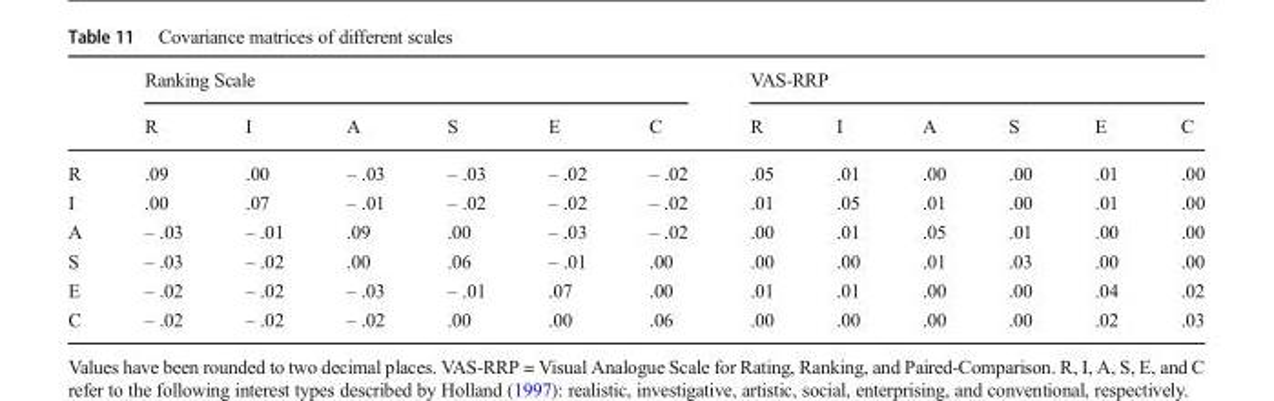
<table><thead><tr><td rowspan="2"></td><td colspan="6">Ranking Scale</td><td colspan="6">VAS-RRP</td></tr><tr><td>R</td><td>I</td><td>A</td><td>S</td><td>E</td><td>C</td><td>R</td><td>I</td><td>A</td><td>S</td><td>E</td><td>C</td></tr></thead><tbody><tr><td>R</td><td>.09</td><td>.00</td><td>– .03</td><td>– .03</td><td>– .02</td><td>– .02</td><td>.05</td><td>.01</td><td>.00</td><td>.00</td><td>.01</td><td>.00</td></tr><tr><td>I</td><td>.00</td><td>.07</td><td>– .01</td><td>– .02</td><td>– .02</td><td>– .02</td><td>.01</td><td>.05</td><td>.01</td><td>.00</td><td>.01</td><td>.00</td></tr><tr><td>A</td><td>– .03</td><td>– .01</td><td>.09</td><td>.00</td><td>– .03</td><td>– .02</td><td>.00</td><td>.01</td><td>.05</td><td>.01</td><td>.00</td><td>.00</td></tr><tr><td>S</td><td>– .03</td><td>– .02</td><td>.00</td><td>.06</td><td>– .01</td><td>.00</td><td>.00</td><td>.00</td><td>.01</td><td>.03</td><td>.00</td><td>.00</td></tr><tr><td>E</td><td>– .02</td><td>– .02</td><td>– .03</td><td>– .01</td><td>.07</td><td>.00</td><td>.01</td><td>.01</td><td>.00</td><td>.00</td><td>.04</td><td>.02</td></tr><tr><td>C</td><td>– .02</td><td>– .02</td><td>– .02</td><td>.00</td><td>.00</td><td>.06</td><td>.00</td><td>.00</td><td>.00</td><td>.00</td><td>.02</td><td>.03</td></tr></tbody></table>